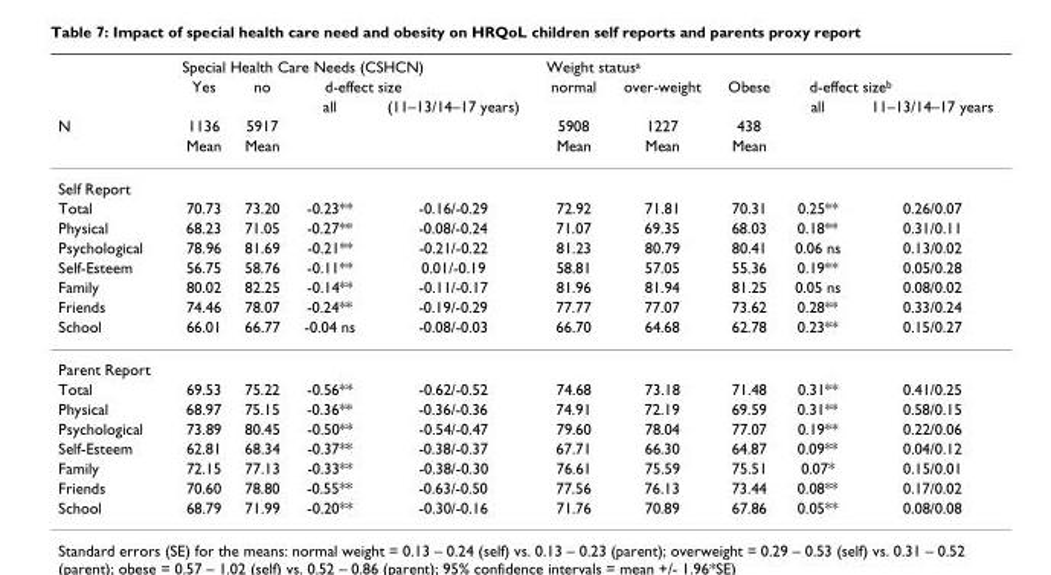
<table><thead><tr><td rowspan="5">N</td><td colspan="4">Special Health Care Needs (CSHCN)</td><td colspan="5">Weight status<sup>a</sup></td></tr><tr><td rowspan="4">Yes 1136 Mean</td><td rowspan="4">no 5917 Mean</td><td colspan="2">d-effect size</td><td rowspan="4">normal 5908 Mean</td><td rowspan="4">over-weight 1227 Mean</td><td rowspan="4">Obese 438 Mean</td><td colspan="2">d-effect size<sup>b</sup></td></tr><tr><td rowspan="3">all</td><td rowspan="3">(11–13/14–17 years)</td><td rowspan="3">all</td><td rowspan="3">11–13/14–17 years</td></tr><tr></tr><tr></tr></thead><tbody><tr><td colspan="10">Self Report</td></tr><tr><td>Total</td><td>70.73</td><td>73.20</td><td>-0.23**</td><td>-0.16/-0.29</td><td>72.92</td><td>71.81</td><td>70.31</td><td>0.25**</td><td>0.26/0.07</td></tr><tr><td>Physical</td><td>68.23</td><td>71.05</td><td>-0.27**</td><td>-0.08/-0.24</td><td>71.07</td><td>69.35</td><td>68.03</td><td>0.18**</td><td>0.31/0.11</td></tr><tr><td>Psychological</td><td>78.96</td><td>81.69</td><td>-0.21**</td><td>-0.21/-0.22</td><td>81.23</td><td>80.79</td><td>80.41</td><td>0.06 ns</td><td>0.13/0.02</td></tr><tr><td>Self-Esteem</td><td>56.75</td><td>58.76</td><td>-0.11**</td><td>0.01/-0.19</td><td>58.81</td><td>57.05</td><td>55.36</td><td>0.19**</td><td>0.05/0.28</td></tr><tr><td>Family</td><td>80.02</td><td>82.25</td><td>-0.14**</td><td>-0.11/-0.17</td><td>81.96</td><td>81.94</td><td>81.25</td><td>0.05 ns</td><td>0.08/0.02</td></tr><tr><td>Friends</td><td>74.46</td><td>78.07</td><td>-0.24**</td><td>-0.19/-0.29</td><td>77.77</td><td>77.07</td><td>73.62</td><td>0.28**</td><td>0.33/0.24</td></tr><tr><td>School</td><td>66.01</td><td>66.77</td><td>-0.04 ns</td><td>-0.08/-0.03</td><td>66.70</td><td>64.68</td><td>62.78</td><td>0.23**</td><td>0.15/0.27</td></tr><tr><td colspan="10">Parent Report</td></tr><tr><td>Total</td><td>69.53</td><td>75.22</td><td>-0.56**</td><td>-0.62/-0.52</td><td>74.68</td><td>73.18</td><td>71.48</td><td>0.31**</td><td>0.41/0.25</td></tr><tr><td>Physical</td><td>68.97</td><td>75.15</td><td>-0.36**</td><td>-0.36/-0.36</td><td>74.91</td><td>72.19</td><td>69.59</td><td>0.31**</td><td>0.58/0.15</td></tr><tr><td>Psychological</td><td>73.89</td><td>80.45</td><td>-0.50**</td><td>-0.54/-0.47</td><td>79.60</td><td>78.04</td><td>77.07</td><td>0.19**</td><td>0.22/0.06</td></tr><tr><td>Self-Esteem</td><td>62.81</td><td>68.34</td><td>-0.37**</td><td>-0.38/-0.37</td><td>67.71</td><td>66.30</td><td>64.87</td><td>0.09**</td><td>0.04/0.12</td></tr><tr><td>Family</td><td>72.15</td><td>77.13</td><td>-0.33**</td><td>-0.38/-0.30</td><td>76.61</td><td>75.59</td><td>75.51</td><td>0.07*</td><td>0.15/0.01</td></tr><tr><td>Friends</td><td>70.60</td><td>78.80</td><td>-0.55**</td><td>-0.63/-0.50</td><td>77.56</td><td>76.13</td><td>73.44</td><td>0.08**</td><td>0.17/0.02</td></tr><tr><td>School</td><td>68.79</td><td>71.99</td><td>-0.20**</td><td>-0.30/-0.16</td><td>71.76</td><td>70.89</td><td>67.86</td><td>0.05**</td><td>0.08/0.08</td></tr></tbody></table>